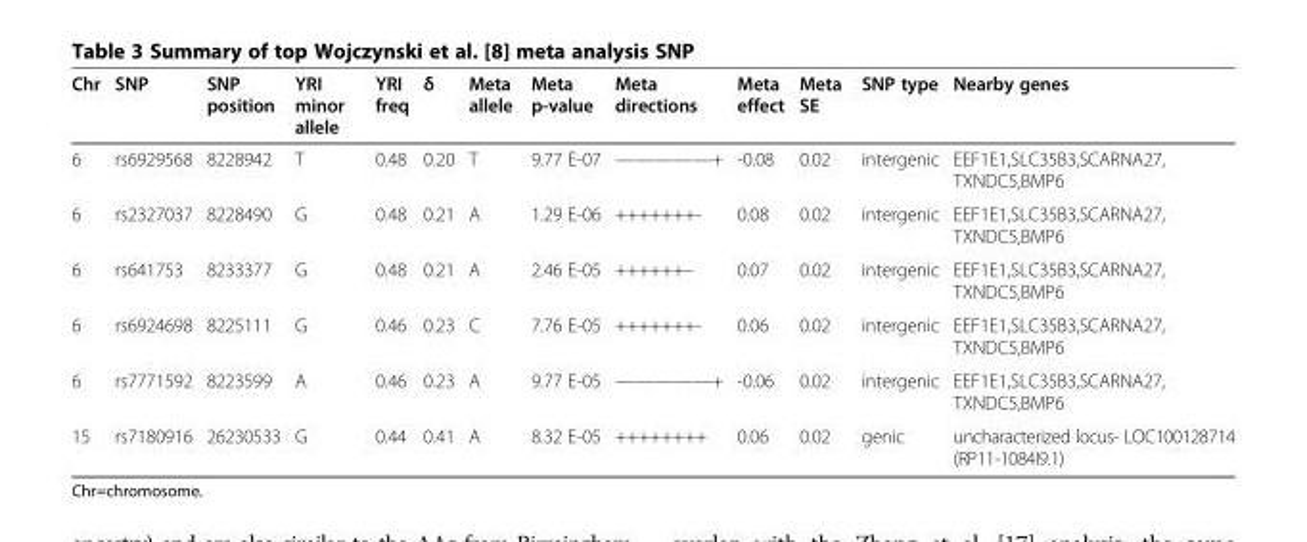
<table><thead><tr><td>Chr</td><td>SNP</td><td>SNP position</td><td>YRI minor allele</td><td>YRI freq</td><td>δ</td><td>Meta allele</td><td>Meta p-value</td><td>Meta directions</td><td>Meta effect</td><td>Meta SE</td><td>SNP type</td><td>Nearby genes</td></tr></thead><tbody><tr><td>6</td><td>rs6929568</td><td>8228942</td><td>T</td><td>0.48</td><td>0.20</td><td>T</td><td>9.77 E-07</td><td>—————+</td><td>-0.08</td><td>0.02</td><td>intergenic</td><td>EEF1E1,SLC35B3,SCARNA27, TXNDC5,BMP6</td></tr><tr><td>6</td><td>rs2327037</td><td>8228490</td><td>G</td><td>0.48</td><td>0.21</td><td>A</td><td>1.29 E-06</td><td>+++++++-</td><td>0.08</td><td>0.02</td><td>intergenic</td><td>EEF1E1,SLC35B3,SCARNA27, TXNDC5,BMP6</td></tr><tr><td>6</td><td>rs641753</td><td>8233377</td><td>G</td><td>0.48</td><td>0.21</td><td>A</td><td>2.46 E-05</td><td>++++++–</td><td>0.07</td><td>0.02</td><td>intergenic</td><td>EEF1E1,SLC35B3,SCARNA27, TXNDC5,BMP6</td></tr><tr><td>6</td><td>rs6924698</td><td>8225111</td><td>G</td><td>0.46</td><td>0.23</td><td>C</td><td>7.76 E-05</td><td>+++++++-</td><td>0.06</td><td>0.02</td><td>intergenic</td><td>EEF1E1,SLC35B3,SCARNA27, TXNDC5,BMP6</td></tr><tr><td>6</td><td>rs7771592</td><td>8223599</td><td>A</td><td>0.46</td><td>0.23</td><td>A</td><td>9.77 E-05</td><td>—————+</td><td>-0.06</td><td>0.02</td><td>intergenic</td><td>EEF1E1,SLC35B3,SCARNA27, TXNDC5,BMP6</td></tr><tr><td>15</td><td>rs7180916</td><td>26230533</td><td>G</td><td>0.44</td><td>0.41</td><td>A</td><td>8.32 E-05</td><td>++++++++</td><td>0.06</td><td>0.02</td><td>genic</td><td>uncharacterized locus- LOC100128714 (RP11-1084I9.1)</td></tr></tbody></table>